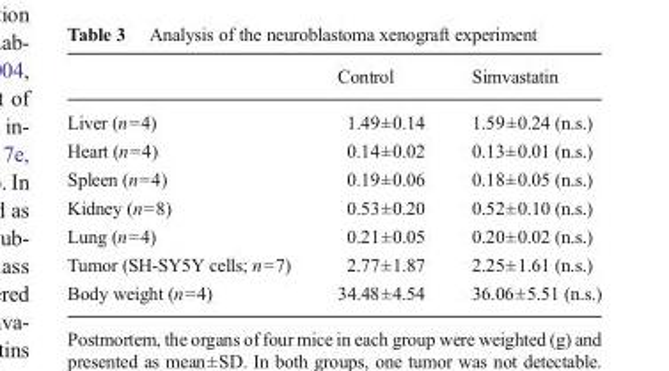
<table><thead><tr><td></td><td>Control</td><td>Simvastatin</td></tr></thead><tbody><tr><td>Liver (n=4)</td><td>1.49±0.14</td><td>1.59±0.24 (n.s.)</td></tr><tr><td>Heart (n=4)</td><td>0.14±0.02</td><td>0.13±0.01 (n.s.)</td></tr><tr><td>Spleen (n=4)</td><td>0.19±0.06</td><td>0.18±0.05 (n.s.)</td></tr><tr><td>Kidney (n=8)</td><td>0.53±0.20</td><td>0.52±0.10 (n.s.)</td></tr><tr><td>Lung (n=4)</td><td>0.21±0.05</td><td>0.20±0.02 (n.s.)</td></tr><tr><td>Tumor (SH-SY5Y cells; n=7)</td><td>2.77±1.87</td><td>2.25±1.61 (n.s.)</td></tr><tr><td>Body weight (n=4)</td><td>34.48±4.54</td><td>36.06±5.51 (n.s.)</td></tr></tbody></table>